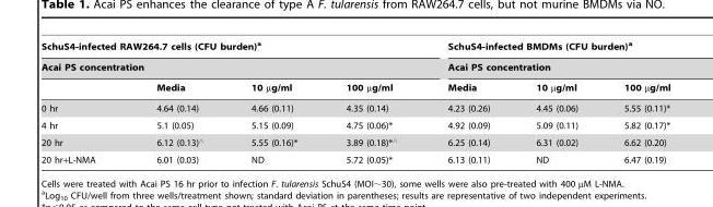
<table><thead><tr><td rowspan="2" colspan="4">SchuS4-infected RAW264.7 cells (CFU burden)<sup>a</sup> Acai PS concentration</td><td rowspan="2" colspan="3">SchuS4-infected BMDMs (CFU burden)<sup>a</sup> Acai PS concentration</td></tr><tr></tr><tr><td></td><td>Media</td><td>10 µg/ml</td><td>100 µg/ml</td><td>Media</td><td>10 µg/ml</td><td>100 µg/ml</td></tr></thead><tbody><tr><td>0 hr</td><td>4.64 (0.14)</td><td>4.66 (0.11)</td><td>4.35 (0.14)</td><td>4.23 (0.26)</td><td>4.45 (0.06)</td><td>5.55 (0.11)*</td></tr><tr><td>4 hr</td><td>5.1 (0.05)</td><td>5.15 (0.09)</td><td>4.75 (0.06)*</td><td>4.92 (0.09)</td><td>5.09 (0.11)</td><td>5.82 (0.17)*</td></tr><tr><td>20 hr</td><td>6.12 (0.13)‘</td><td>5.55 (0.16)*</td><td>3.89 (0.18)*‘</td><td>6.25 (0.14)</td><td>6.31 (0.02)</td><td>6.62 (0.20)</td></tr><tr><td>20 hr+L-NMA</td><td>6.01 (0.03)</td><td>ND</td><td>5.72 (0.05)*</td><td>6.13 (0.11)</td><td>ND</td><td>6.47 (0.19)</td></tr></tbody></table>